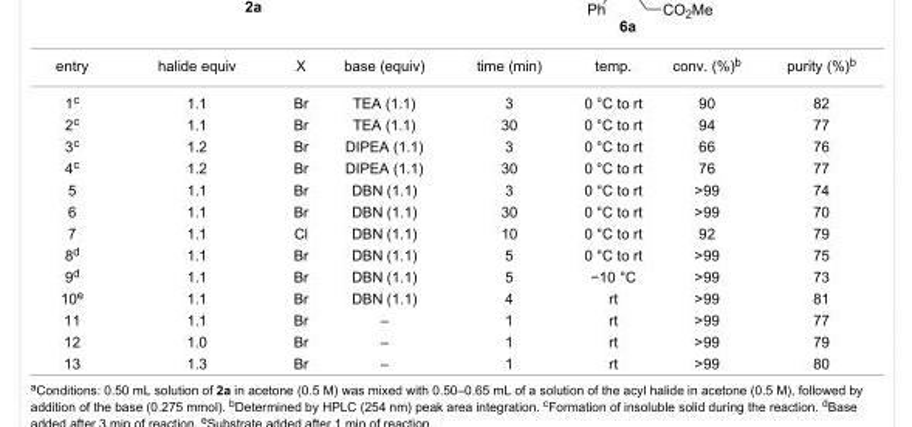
<table><tbody><tr><td>entry</td><td>halide equiv</td><td>X</td><td>base (equiv)</td><td>time (min)</td><td>temp.</td><td>conv. (%)<sup>b</sup></td><td>purity (%)<sup>b</sup></td></tr><tr><td>1<sup>c</sup></td><td>1.1</td><td>Br</td><td>TEA (1.1)</td><td>3</td><td>0 °C to rt</td><td>90</td><td>82</td></tr><tr><td>2<sup>c</sup></td><td>1.1</td><td>Br</td><td>TEA (1.1)</td><td>30</td><td>0 °C to rt</td><td>94</td><td>77</td></tr><tr><td>3<sup>c</sup></td><td>1.2</td><td>Br</td><td>DIPEA (1.1)</td><td>3</td><td>0 °C to rt</td><td>66</td><td>76</td></tr><tr><td>4<sup>c</sup></td><td>1.2</td><td>Br</td><td>DIPEA (1.1)</td><td>30</td><td>0 °C to rt</td><td>76</td><td>77</td></tr><tr><td>5</td><td>1.1</td><td>Br</td><td>DBN (1.1)</td><td>3</td><td>0 °C to rt</td><td>&gt;99</td><td>74</td></tr><tr><td>6</td><td>1.1</td><td>Br</td><td>DBN (1.1)</td><td>30</td><td>0 °C to rt</td><td>&gt;99</td><td>70</td></tr><tr><td>7</td><td>1.1</td><td>Cl</td><td>DBN (1.1)</td><td>10</td><td>0 °C to rt</td><td>92</td><td>79</td></tr><tr><td>8<sup>d</sup></td><td>1.1</td><td>Br</td><td>DBN (1.1)</td><td>5</td><td>0 °C to rt</td><td>&gt;99</td><td>75</td></tr><tr><td>9<sup>d</sup></td><td>1.1</td><td>Br</td><td>DBN (1.1)</td><td>5</td><td>−10 °C</td><td>&gt;99</td><td>73</td></tr><tr><td>10<sup>e</sup></td><td>1.1</td><td>Br</td><td>DBN (1.1)</td><td>4</td><td>rt</td><td>&gt;99</td><td>81</td></tr><tr><td>11</td><td>1.1</td><td>Br</td><td>–</td><td>1</td><td>rt</td><td>&gt;99</td><td>77</td></tr><tr><td>12</td><td>1.0</td><td>Br</td><td>–</td><td>1</td><td>rt</td><td>&gt;99</td><td>79</td></tr><tr><td>13</td><td>1.3</td><td>Br</td><td>–</td><td>1</td><td>rt</td><td>&gt;99</td><td>80</td></tr></tbody></table>